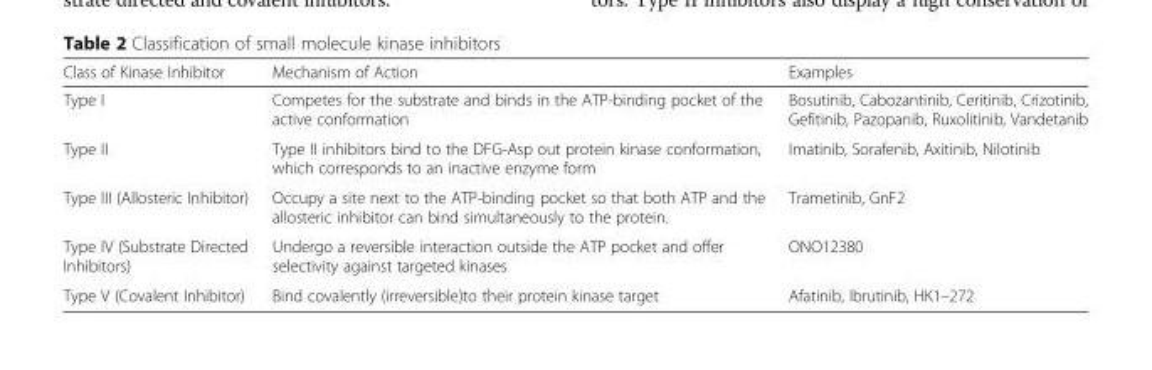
<table><thead><tr><td>Class of Kinase Inhibitor</td><td>Mechanism of Action</td><td>Examples</td></tr></thead><tbody><tr><td>Type I</td><td>Competes for the substrate and binds in the ATP-binding pocket of the active conformation</td><td>Bosutinib, Cabozantinib, Ceritinib, Crizotinib, Gefitinib, Pazopanib, Ruxolitinib, Vandetanib</td></tr><tr><td>Type II</td><td>Type II inhibitors bind to the DFG-Asp out protein kinase conformation, which corresponds to an inactive enzyme form</td><td>Imatinib, Sorafenib, Axitinib, Nilotinib</td></tr><tr><td>Type III (Allosteric Inhibitor)</td><td>Occupy a site next to the ATP-binding pocket so that both ATP and the allosteric inhibitor can bind simultaneously to the protein.</td><td>Trametinib, GnF2</td></tr><tr><td>Type IV (Substrate Directed Inhibitors)</td><td>Undergo a reversible interaction outside the ATP pocket and offer selectivity against targeted kinases</td><td>ONO12380</td></tr><tr><td>Type V (Covalent Inhibitor)</td><td>Bind covalently (irreversible)to their protein kinase target</td><td>Afatinib, Ibrutinib, HK1–272</td></tr></tbody></table>